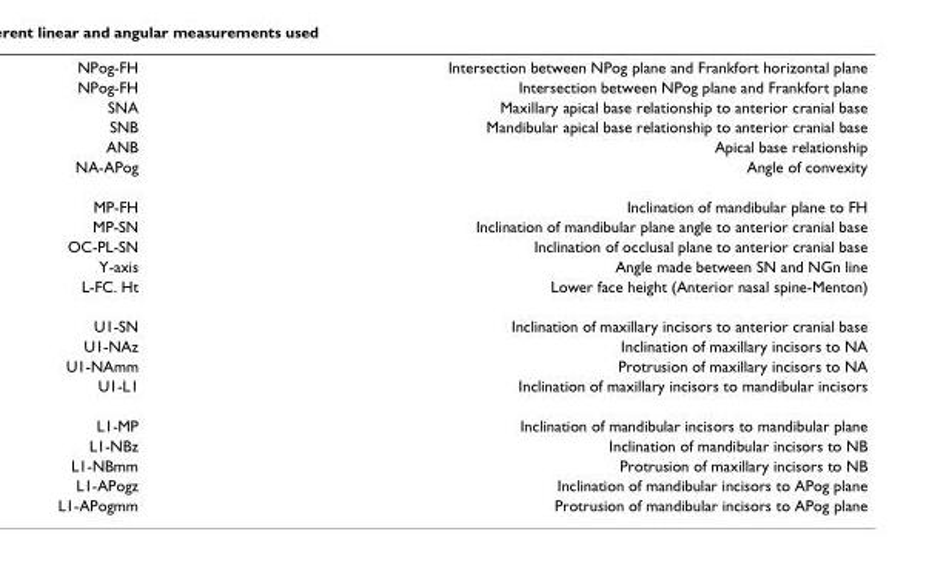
<table><tbody><tr><td>NPog-FH</td><td>Intersection between NPog plane and Frankfort horizontal plane</td></tr><tr><td>NPog-FH</td><td>Intersection between NPog plane and Frankfort plane</td></tr><tr><td>SNA</td><td>Maxillary apical base relationship to anterior cranial base</td></tr><tr><td>SNB</td><td>Mandibular apical base relationship to anterior cranial base</td></tr><tr><td>ANB</td><td>Apical base relationship</td></tr><tr><td>NA-APog</td><td>Angle of convexity</td></tr><tr><td>MP-FH</td><td>Inclination of mandibular plane to FH</td></tr><tr><td>MP-SN</td><td>Inclination of mandibular plane angle to anterior cranial base</td></tr><tr><td>OC-PL-SN</td><td>Inclination of occlusal plane to anterior cranial base</td></tr><tr><td>Y-axis</td><td>Angle made between SN and NGn line</td></tr><tr><td>L-FC. Ht</td><td>Lower face height (Anterior nasal spine-Menton)</td></tr><tr><td>U1-SN</td><td>Inclination of maxillary incisors to anterior cranial base</td></tr><tr><td>U1-NAz</td><td>Inclination of maxillary incisors to NA</td></tr><tr><td>U1-NAmm</td><td>Protrusion of maxillary incisors to NA</td></tr><tr><td>U1-L1</td><td>Inclination of maxillary incisors to mandibular incisors</td></tr><tr><td>L1-MP</td><td>Inclination of mandibular incisors to mandibular plane</td></tr><tr><td>L1-NBz</td><td>Inclination of mandibular incisors to NB</td></tr><tr><td>L1-NBmm</td><td>Protrusion of maxillary incisors to NB</td></tr><tr><td>L1-APogz</td><td>Inclination of mandibular incisors to APog plane</td></tr><tr><td>L1-APogmm</td><td>Protrusion of mandibular incisors to APog plane</td></tr></tbody></table>